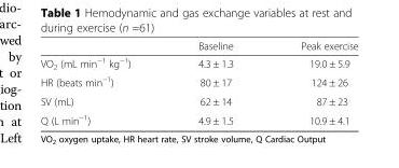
<table><thead><tr><td></td><td>Baseline</td><td>Peak exercise</td></tr></thead><tbody><tr><td>VO<sub>2</sub> (mL min<sup>−1</sup> kg<sup>−1</sup>)</td><td>4.3 ± 1.3</td><td>19.0 ± 5.9</td></tr><tr><td>HR (beats min<sup>−1</sup>)</td><td>80 ± 17</td><td>124 ± 26</td></tr><tr><td>SV (mL)</td><td>62 ± 14</td><td>87 ± 23</td></tr><tr><td>Q (L min<sup>−1</sup>)</td><td>4.9 ± 1.5</td><td>10.9 ± 4.1</td></tr></tbody></table>